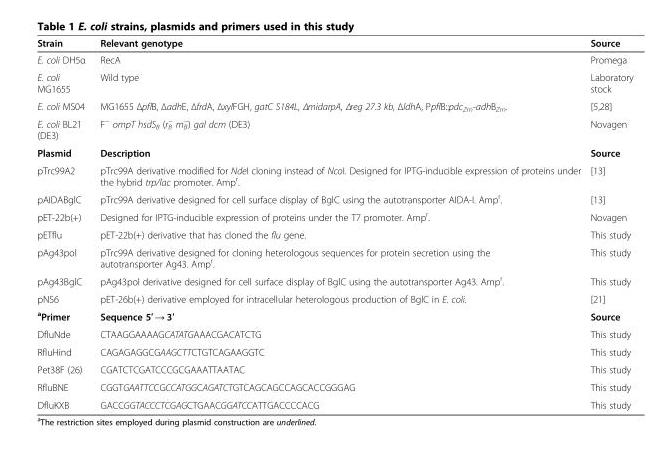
<table><thead><tr><td>Strain</td><td>Relevant genotype</td><td>Source</td></tr></thead><tbody><tr><td>E. coli DH5α</td><td>RecA</td><td>Promega</td></tr><tr><td>E. coli MG1655</td><td>Wild type</td><td>Laboratory stock</td></tr><tr><td>E. coli MS04</td><td>MG1655 ΔpflB, ΔadhE, ΔfrdA, ΔxylFGH, gatC S184L, ΔmidarpA, Δreg 27.3 kb, ΔldhA, PpflB::pdcZm-adhBZm.</td><td>[5,28]</td></tr><tr><td>E. coli BL21 (DE3)</td><td>F<sup>−</sup> ompT hsdS<sub>B</sub> (r<sub>B</sub> <sup>−</sup> m<sub>B</sub> <sup>−</sup>) gal dcm (DE3)</td><td>Novagen</td></tr><tr><td>Plasmid</td><td>Description</td><td>Source</td></tr><tr><td>pTrc99A2</td><td>pTrc99A derivative modified for NdeI cloning instead of NcoI. Designed for IPTG-inducible expression of proteins under the hybrid trp/lac promoter. Amp<sup>r</sup>.</td><td>[13]</td></tr><tr><td>pAIDABglC</td><td>pTrc99A derivative designed for cell surface display of BglC using the autotransporter AIDA-I. Amp<sup>r</sup>.</td><td>[13]</td></tr><tr><td>pET-22b(+)</td><td>Designed for IPTG-inducible expression of proteins under the T7 promoter. Amp<sup>r</sup>.</td><td>Novagen</td></tr><tr><td>pETflu</td><td>pET-22b(+) derivative that has cloned the flu gene.</td><td>This study</td></tr><tr><td>pAg43pol</td><td>pTrc99A derivative designed for cloning heterologous sequences for protein secretion using the autotransporter Ag43. Amp<sup>r</sup>.</td><td>This study</td></tr><tr><td>pAg43BglC</td><td>pAg43pol derivative designed for cell surface display of BglC using the autotransporter Ag43. Amp<sup>r</sup>.</td><td>This study</td></tr><tr><td>pNS6</td><td>pET-26b(+) derivative employed for intracellular heterologous production of BglC in E. coli.</td><td>[21]</td></tr><tr><td><sup>a</sup>Primer</td><td>Sequence 5′ → 3′</td><td>Source</td></tr><tr><td>DfluNde</td><td>CTAAGGAAAAGCATATGAAACGACATCTG</td><td>This study</td></tr><tr><td>RfluHind</td><td>CAGAGAGGCGAAGCTTCTGTCAGAAGGTC</td><td>This study</td></tr><tr><td>Pet38F (26)</td><td>CGATCTCGATCCCGCGAAATTAATAC</td><td>This study</td></tr><tr><td>RfluBNE</td><td>CGGTGAATTCCGCCATGGCAGATCTGTCAGCAGCCAGCACCGGGAG</td><td>This study</td></tr><tr><td>DfluKXB</td><td>GACCGGTACCCTCGAGCTGAACGGATCCATTGACCCCACG</td><td>This study</td></tr></tbody></table>